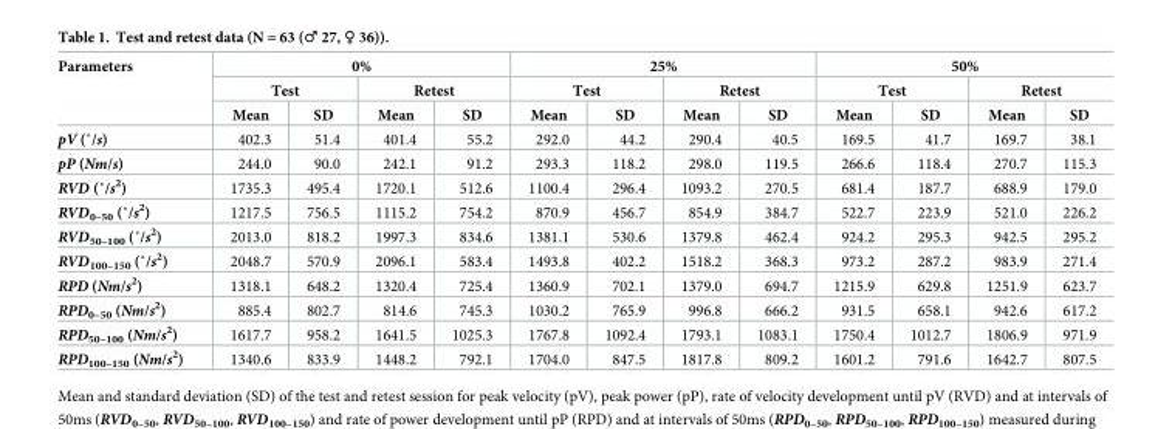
<table><thead><tr><td rowspan="3">Parameters</td><td colspan="4">0%</td><td colspan="4">25%</td><td colspan="4">50%</td></tr><tr><td colspan="2">Test</td><td colspan="2">Retest</td><td colspan="2">Test</td><td colspan="2">Retest</td><td colspan="2">Test</td><td colspan="2">Retest</td></tr><tr><td>Mean</td><td>SD</td><td>Mean</td><td>SD</td><td>Mean</td><td>SD</td><td>Mean</td><td>SD</td><td>Mean</td><td>SD</td><td>Mean</td><td>SD</td></tr></thead><tbody><tr><td>pV (˚/s)</td><td>402.3</td><td>51.4</td><td>401.4</td><td>55.2</td><td>292.0</td><td>44.2</td><td>290.4</td><td>40.5</td><td>169.5</td><td>41.7</td><td>169.7</td><td>38.1</td></tr><tr><td>pP (Nm/s)</td><td>244.0</td><td>90.0</td><td>242.1</td><td>91.2</td><td>293.3</td><td>118.2</td><td>298.0</td><td>119.5</td><td>266.6</td><td>118.4</td><td>270.7</td><td>115.3</td></tr><tr><td>RVD (˚/s2)</td><td>1735.3</td><td>495.4</td><td>1720.1</td><td>512.6</td><td>1100.4</td><td>296.4</td><td>1093.2</td><td>270.5</td><td>681.4</td><td>187.7</td><td>688.9</td><td>179.0</td></tr><tr><td>RVD0–50 (˚/s2)</td><td>1217.5</td><td>756.5</td><td>1115.2</td><td>754.2</td><td>870.9</td><td>456.7</td><td>854.9</td><td>384.7</td><td>522.7</td><td>223.9</td><td>521.0</td><td>226.2</td></tr><tr><td>RVD50–100 (˚/s2)</td><td>2013.0</td><td>818.2</td><td>1997.3</td><td>834.6</td><td>1381.1</td><td>530.6</td><td>1379.8</td><td>462.4</td><td>924.2</td><td>295.3</td><td>942.5</td><td>295.2</td></tr><tr><td>RVD100–150 (˚/s2)</td><td>2048.7</td><td>570.9</td><td>2096.1</td><td>583.4</td><td>1493.8</td><td>402.2</td><td>1518.2</td><td>368.3</td><td>973.2</td><td>287.2</td><td>983.9</td><td>271.4</td></tr><tr><td>RPD (Nm/s<sup>2</sup>)</td><td>1318.1</td><td>648.2</td><td>1320.4</td><td>725.4</td><td>1360.9</td><td>702.1</td><td>1379.0</td><td>694.7</td><td>1215.9</td><td>629.8</td><td>1251.9</td><td>623.7</td></tr><tr><td>RPD<sub>0–50</sub> (Nm/s<sup>2</sup>)</td><td>885.4</td><td>802.7</td><td>814.6</td><td>745.3</td><td>1030.2</td><td>765.9</td><td>996.8</td><td>666.2</td><td>931.5</td><td>658.1</td><td>942.6</td><td>617.2</td></tr><tr><td>RPD<sub>50–100</sub> (Nm/s<sup>2</sup>)</td><td>1617.7</td><td>958.2</td><td>1641.5</td><td>1025.3</td><td>1767.8</td><td>1092.4</td><td>1793.1</td><td>1083.1</td><td>1750.4</td><td>1012.7</td><td>1806.9</td><td>971.9</td></tr><tr><td>RPD<sub>100–150</sub> (Nm/s<sup>2</sup>)</td><td>1340.6</td><td>833.9</td><td>1448.2</td><td>792.1</td><td>1704.0</td><td>847.5</td><td>1817.8</td><td>809.2</td><td>1601.2</td><td>791.6</td><td>1642.7</td><td>807.5</td></tr></tbody></table>